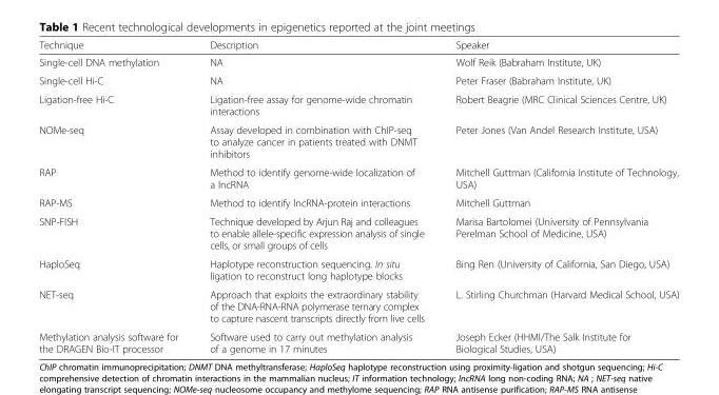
<table><thead><tr><td>Technique</td><td>Description</td><td>Speaker</td></tr></thead><tbody><tr><td>Single-cell DNA methylation</td><td>NA</td><td>Wolf Reik (Babraham Institute, UK)</td></tr><tr><td>Single-cell Hi-C</td><td>NA</td><td>Peter Fraser (Babraham Institute, UK)</td></tr><tr><td>Ligation-free Hi-C</td><td>Ligation-free assay for genome-wide chromatin interactions</td><td>Robert Beagrie (MRC Clinical Sciences Centre, UK)</td></tr><tr><td>NOMe-seq</td><td>Assay developed in combination with ChIP-seq to analyze cancer in patients treated with DNMT inhibitors</td><td>Peter Jones (Van Andel Research Institute, USA)</td></tr><tr><td>RAP</td><td>Method to identify genome-wide localization of a lncRNA</td><td>Mitchell Guttman (California Institute of Technology, USA)</td></tr><tr><td>RAP-MS</td><td>Method to identify lncRNA-protein interactions</td><td>Mitchell Guttman</td></tr><tr><td>SNP-FISH</td><td>Technique developed by Arjun Raj and colleagues to enable allele-specific expression analysis of single cells, or small groups of cells</td><td>Marisa Bartolomei (University of Pennsylvania Perelman School of Medicine, USA)</td></tr><tr><td>HaploSeq</td><td>Haplotype reconstruction sequencing. In situ ligation to reconstruct long haplotype blocks</td><td>Bing Ren (University of California, San Diego, USA)</td></tr><tr><td>NET-seq</td><td>Approach that exploits the extraordinary stability of the DNA-RNA-RNA polymerase ternary complex to capture nascent transcripts directly from live cells</td><td>L. Stirling Churchman (Harvard Medical School, USA)</td></tr><tr><td>Methylation analysis software for the DRAGEN Bio-IT processor</td><td>Software used to carry out methylation analysis of a genome in 17 minutes</td><td>Joseph Ecker (HHMI/The Salk Institute for Biological Studies, USA)</td></tr></tbody></table>